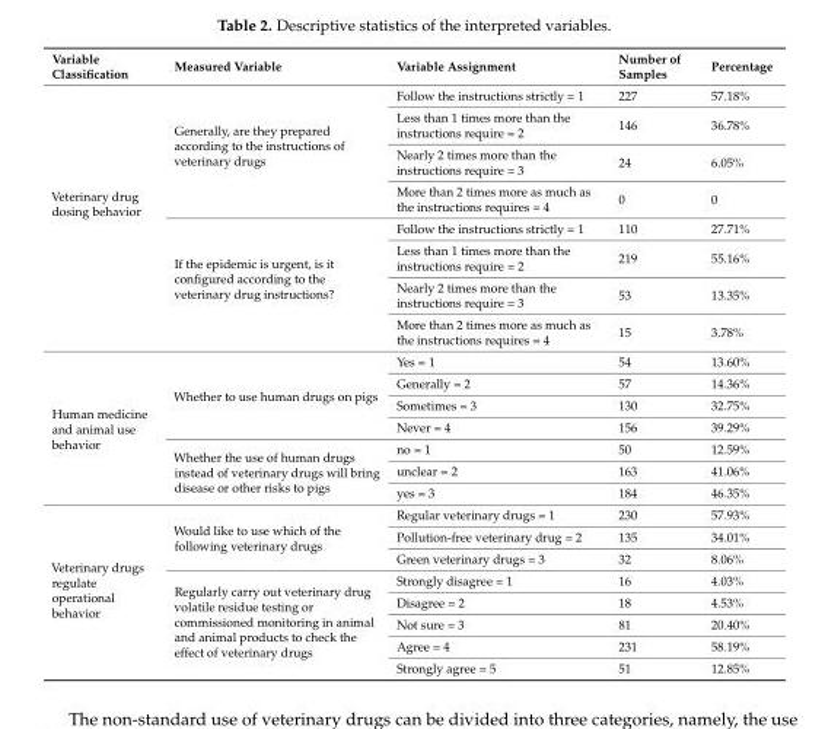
<table><thead><tr><td>Variable Classification</td><td>Measured Variable</td><td>Variable Assignment</td><td>Number of Samples</td><td>Percentage</td></tr></thead><tbody><tr><td rowspan="8">Veterinary drug dosing behavior</td><td rowspan="4">Generally, are they prepared according to the instructions of veterinary drugs</td><td>Follow the instructions strictly = 1</td><td>227</td><td>57.18%</td></tr><tr><td>Less than 1 times more than the instructions require = 2</td><td>146</td><td>36.78%</td></tr><tr><td>Nearly 2 times more than the instructions require = 3</td><td>24</td><td>6.05%</td></tr><tr><td>More than 2 times more as much as the instructions requires = 4</td><td>0</td><td>0</td></tr><tr><td rowspan="4">If the epidemic is urgent, is it configured according to the veterinary drug instructions?</td><td>Follow the instructions strictly = 1</td><td>110</td><td>27.71%</td></tr><tr><td>Less than 1 times more than the instructions require = 2</td><td>219</td><td>55.16%</td></tr><tr><td>Nearly 2 times more than the instructions require = 3</td><td>53</td><td>13.35%</td></tr><tr><td>More than 2 times more as much as the instructions requires = 4</td><td>15</td><td>3.78%</td></tr><tr><td rowspan="7">Human medicine and animal use behavior</td><td rowspan="4">Whether to use human drugs on pigs</td><td>Yes = 1</td><td>54</td><td>13.60%</td></tr><tr><td>Generally = 2</td><td>57</td><td>14.36%</td></tr><tr><td>Sometimes = 3</td><td>130</td><td>32.75%</td></tr><tr><td>Never = 4</td><td>156</td><td>39.29%</td></tr><tr><td rowspan="3">Whether the use of human drugs instead of veterinary drugs will bring disease or other risks to pigs</td><td>no = 1</td><td>50</td><td>12.59%</td></tr><tr><td>unclear = 2</td><td>163</td><td>41.06%</td></tr><tr><td>yes = 3</td><td>184</td><td>46.35%</td></tr><tr><td rowspan="8">Veterinary drugs regulate operational behavior</td><td rowspan="3">Would like to use which of the following veterinary drugs</td><td>Regular veterinary drugs = 1</td><td>230</td><td>57.93%</td></tr><tr><td>Pollution-free veterinary drug = 2</td><td>135</td><td>34.01%</td></tr><tr><td>Green veterinary drugs = 3</td><td>32</td><td>8.06%</td></tr><tr><td rowspan="5">Regularly carry out veterinary drug volatile residue testing or commissioned monitoring in animal and animal products to check the effect of veterinary drugs</td><td>Strongly disagree = 1</td><td>16</td><td>4.03%</td></tr><tr><td>Disagree = 2</td><td>18</td><td>4.53%</td></tr><tr><td>Not sure = 3</td><td>81</td><td>20.40%</td></tr><tr><td>Agree = 4</td><td>231</td><td>58.19%</td></tr><tr><td>Strongly agree = 5</td><td>51</td><td>12.85%</td></tr></tbody></table>